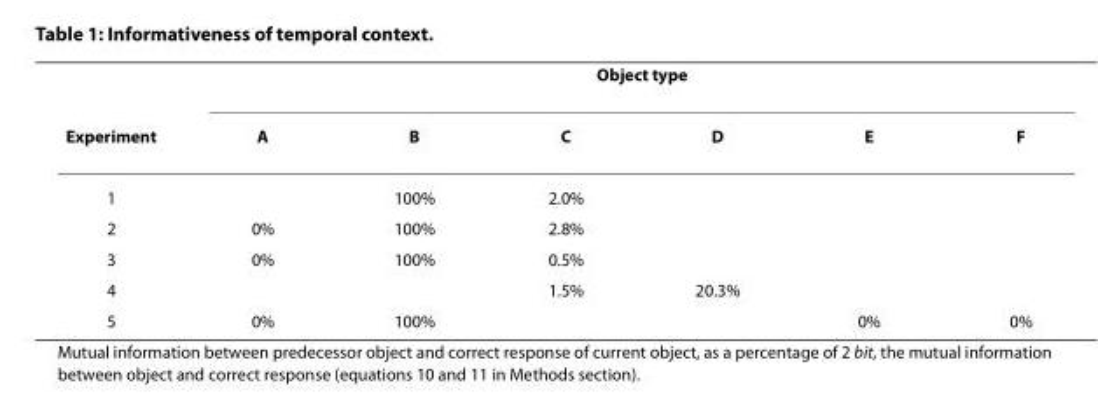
<table><thead><tr><td rowspan="2">Experiment</td><td colspan="6">Object type</td></tr><tr><td>A</td><td>B</td><td>C</td><td>D</td><td>E</td><td>F</td></tr></thead><tbody><tr><td>1</td><td></td><td>100%</td><td>2.0%</td><td></td><td></td><td></td></tr><tr><td>2</td><td>0%</td><td>100%</td><td>2.8%</td><td></td><td></td><td></td></tr><tr><td>3</td><td>0%</td><td>100%</td><td>0.5%</td><td></td><td></td><td></td></tr><tr><td>4</td><td></td><td></td><td>1.5%</td><td>20.3%</td><td></td><td></td></tr><tr><td>5</td><td>0%</td><td>100%</td><td></td><td></td><td>0%</td><td>0%</td></tr></tbody></table>